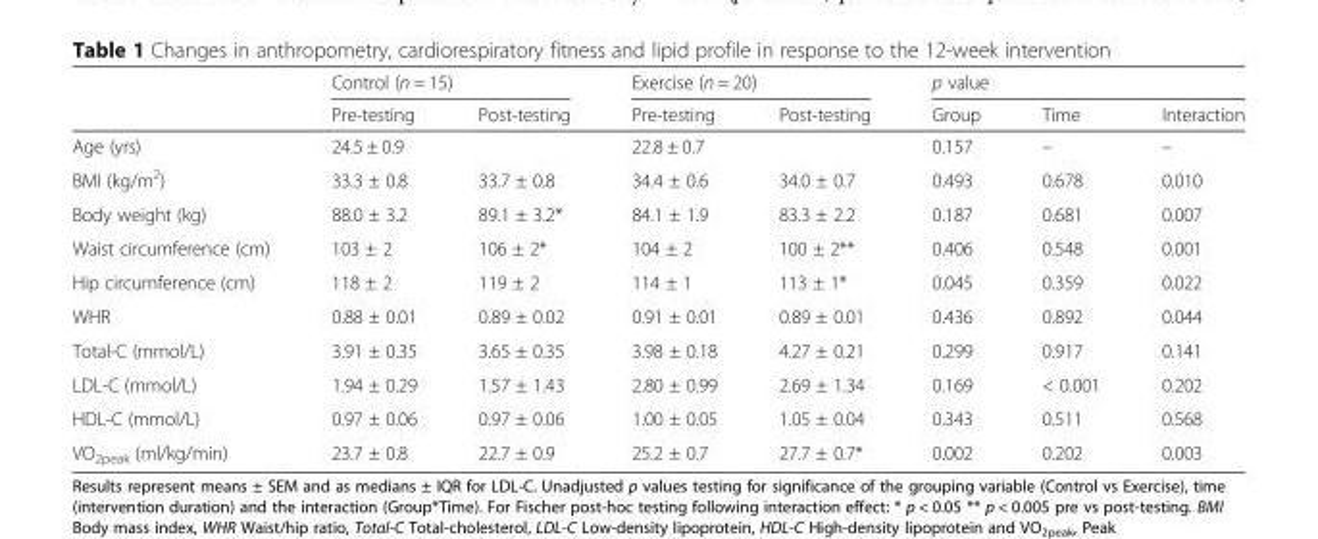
<table><thead><tr><td rowspan="2"></td><td colspan="2">Control (n = 15)</td><td colspan="2">Exercise (n = 20)</td><td colspan="3">p value</td></tr><tr><td>Pre-testing</td><td>Post-testing</td><td>Pre-testing</td><td>Post-testing</td><td>Group</td><td>Time</td><td>Interaction</td></tr></thead><tbody><tr><td>Age (yrs)</td><td colspan="2">24.5 ± 0.9</td><td colspan="2">22.8 ± 0.7</td><td>0.157</td><td>–</td><td>–</td></tr><tr><td>BMI (kg/m<sup>2</sup>)</td><td>33.3 ± 0.8</td><td>33.7 ± 0.8</td><td>34.4 ± 0.6</td><td>34.0 ± 0.7</td><td>0.493</td><td>0.678</td><td>0.010</td></tr><tr><td>Body weight (kg)</td><td>88.0 ± 3.2</td><td>89.1 ± 3.2*</td><td>84.1 ± 1.9</td><td>83.3 ± 2.2</td><td>0.187</td><td>0.681</td><td>0.007</td></tr><tr><td>Waist circumference (cm)</td><td>103 ± 2</td><td>106 ± 2*</td><td>104 ± 2</td><td>100 ± 2**</td><td>0.406</td><td>0.548</td><td>0.001</td></tr><tr><td>Hip circumference (cm)</td><td>118 ± 2</td><td>119 ± 2</td><td>114 ± 1</td><td>113 ± 1*</td><td>0.045</td><td>0.359</td><td>0.022</td></tr><tr><td>WHR</td><td>0.88 ± 0.01</td><td>0.89 ± 0.02</td><td>0.91 ± 0.01</td><td>0.89 ± 0.01</td><td>0.436</td><td>0.892</td><td>0.044</td></tr><tr><td>Total-C (mmol/L)</td><td>3.91 ± 0.35</td><td>3.65 ± 0.35</td><td>3.98 ± 0.18</td><td>4.27 ± 0.21</td><td>0.299</td><td>0.917</td><td>0.141</td></tr><tr><td>LDL-C (mmol/L)</td><td>1.94 ± 0.29</td><td>1.57 ± 1.43</td><td>2.80 ± 0.99</td><td>2.69 ± 1.34</td><td>0.169</td><td>&lt; 0.001</td><td>0.202</td></tr><tr><td>HDL-C (mmol/L)</td><td>0.97 ± 0.06</td><td>0.97 ± 0.06</td><td>1.00 ± 0.05</td><td>1.05 ± 0.04</td><td>0.343</td><td>0.511</td><td>0.568</td></tr><tr><td>VO<sub>2peak</sub> (ml/kg/min)</td><td>23.7 ± 0.8</td><td>22.7 ± 0.9</td><td>25.2 ± 0.7</td><td>27.7 ± 0.7*</td><td>0.002</td><td>0.202</td><td>0.003</td></tr></tbody></table>